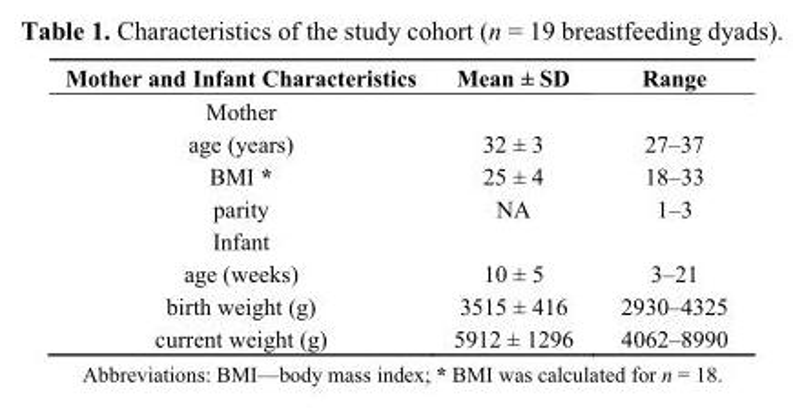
<table><thead><tr><td>Mother and Infant Characteristics</td><td>Mean ± SD</td><td>Range</td></tr></thead><tbody><tr><td colspan="3">Mother</td></tr><tr><td>age (years)</td><td>32 ± 3</td><td>27–37</td></tr><tr><td>BMI *</td><td>25 ± 4</td><td>18–33</td></tr><tr><td>parity</td><td>NA</td><td>1–3</td></tr><tr><td colspan="3">Infant</td></tr><tr><td>age (weeks)</td><td>10 ± 5</td><td>3–21</td></tr><tr><td>birth weight (g)</td><td>3515 ± 416</td><td>2930–4325</td></tr><tr><td>current weight (g)</td><td>5912 ± 1296</td><td>4062–8990</td></tr></tbody></table>